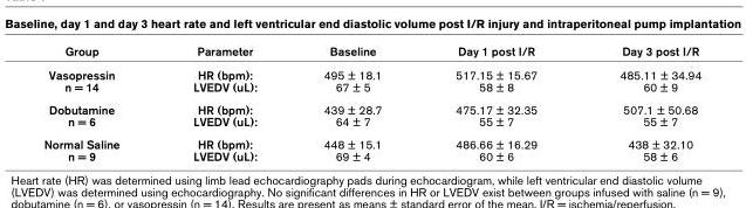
<table><thead><tr><td>Group</td><td>Parameter</td><td>Baseline</td><td>Day 1 post I/R</td><td>Day 3 post I/R</td></tr></thead><tbody><tr><td>Vasopressin n = 14</td><td>HR (bpm): LVEDV (uL):</td><td>495 ± 18.1 67 ± 5</td><td>517.15 ± 15.67 58 ± 8</td><td>485.11 ± 34.94 60 ± 9</td></tr><tr><td>Dobutamine n = 6</td><td>HR (bpm): LVEDV (uL):</td><td>439 ± 28.7 64 ± 7</td><td>475.17 ± 32.35 55 ± 7</td><td>507.1 ± 50.68 55 ± 7</td></tr><tr><td>Normal Saline n = 9</td><td>HR (bpm): LVEDV (uL):</td><td>448 ± 15.1 69 ± 4</td><td>486.66 ± 16.29 60 ± 6</td><td>438 ± 32.10 58 ± 6</td></tr></tbody></table>